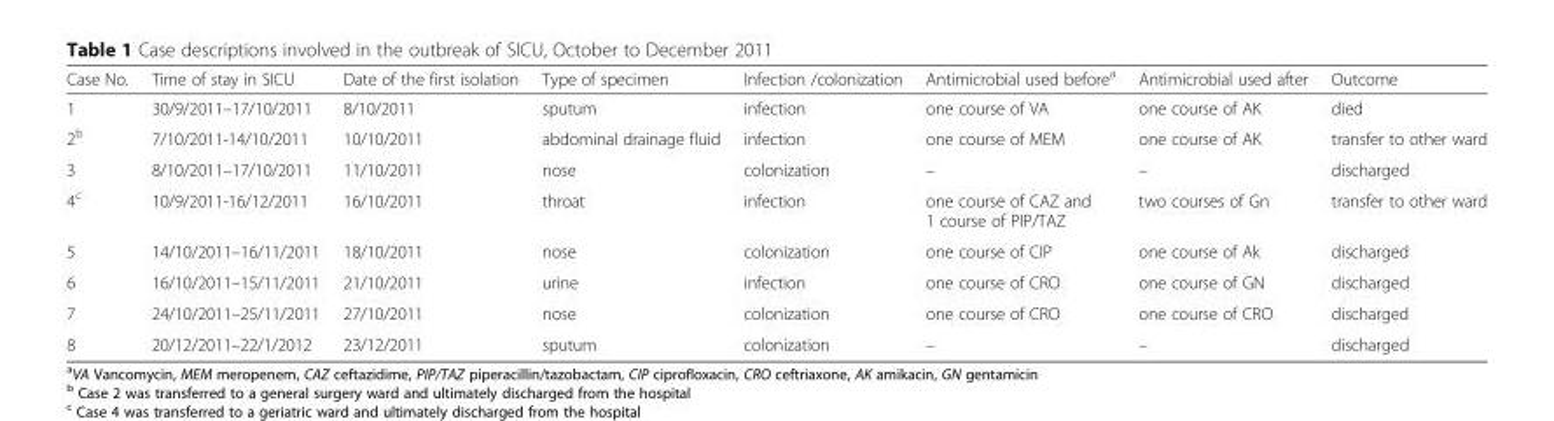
<table><thead><tr><td>Case No.</td><td>Time of stay in SICU</td><td>Date of the first isolation</td><td>Type of specimen</td><td>Infection /colonization</td><td>Antimicrobial used before<sup>a</sup></td><td>Antimicrobial used after</td><td>Outcome</td></tr></thead><tbody><tr><td>1</td><td>30/9/2011–17/10/2011</td><td>8/10/2011</td><td>sputum</td><td>infection</td><td>one course of VA</td><td>one course of AK</td><td>died</td></tr><tr><td>2<sup>b</sup></td><td>7/10/2011-14/10/2011</td><td>10/10/2011</td><td>abdominal drainage fluid</td><td>infection</td><td>one course of MEM</td><td>one course of AK</td><td>transfer to other ward</td></tr><tr><td>3</td><td>8/10/2011–17/10/2011</td><td>11/10/2011</td><td>nose</td><td>colonization</td><td>–</td><td>–</td><td>discharged</td></tr><tr><td>4<sup>c</sup></td><td>10/9/2011-16/12/2011</td><td>16/10/2011</td><td>throat</td><td>infection</td><td>one course of CAZ and 1 course of PIP/TAZ</td><td>two courses of Gn</td><td>transfer to other ward</td></tr><tr><td>5</td><td>14/10/2011–16/11/2011</td><td>18/10/2011</td><td>nose</td><td>colonization</td><td>one course of CIP</td><td>one course of Ak</td><td>discharged</td></tr><tr><td>6</td><td>16/10/2011–15/11/2011</td><td>21/10/2011</td><td>urine</td><td>infection</td><td>one course of CRO</td><td>one course of GN</td><td>discharged</td></tr><tr><td>7</td><td>24/10/2011–25/11/2011</td><td>27/10/2011</td><td>nose</td><td>colonization</td><td>one course of CRO</td><td>one course of CRO</td><td>discharged</td></tr><tr><td>8</td><td>20/12/2011–22/1/2012</td><td>23/12/2011</td><td>sputum</td><td>colonization</td><td>–</td><td>–</td><td>discharged</td></tr></tbody></table>